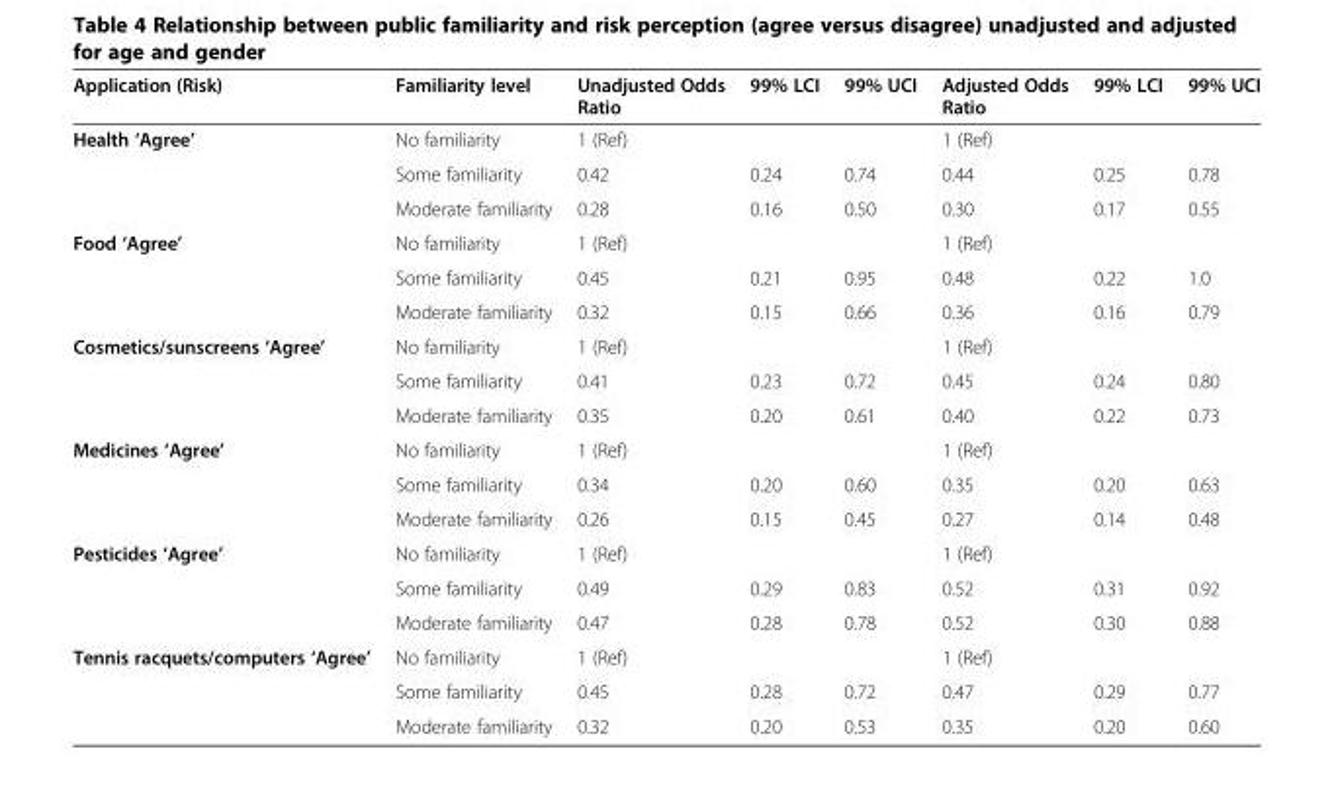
<table><thead><tr><td>Application (Risk)</td><td>Familiarity level</td><td>Unadjusted Odds Ratio</td><td>99% LCI</td><td>99% UCI</td><td>Adjusted Odds Ratio</td><td>99% LCI</td><td>99% UCI</td></tr></thead><tbody><tr><td rowspan="3">Health ‘Agree’</td><td>No familiarity</td><td>1 (Ref)</td><td></td><td></td><td>1 (Ref)</td><td></td><td></td></tr><tr><td>Some familiarity</td><td>0.42</td><td>0.24</td><td>0.74</td><td>0.44</td><td>0.25</td><td>0.78</td></tr><tr><td>Moderate familiarity</td><td>0.28</td><td>0.16</td><td>0.50</td><td>0.30</td><td>0.17</td><td>0.55</td></tr><tr><td rowspan="3">Food ‘Agree’</td><td>No familiarity</td><td>1 (Ref)</td><td></td><td></td><td>1 (Ref)</td><td></td><td></td></tr><tr><td>Some familiarity</td><td>0.45</td><td>0.21</td><td>0.95</td><td>0.48</td><td>0.22</td><td>1.0</td></tr><tr><td>Moderate familiarity</td><td>0.32</td><td>0.15</td><td>0.66</td><td>0.36</td><td>0.16</td><td>0.79</td></tr><tr><td rowspan="3">Cosmetics/sunscreens ‘Agree’</td><td>No familiarity</td><td>1 (Ref)</td><td></td><td></td><td>1 (Ref)</td><td></td><td></td></tr><tr><td>Some familiarity</td><td>0.41</td><td>0.23</td><td>0.72</td><td>0.45</td><td>0.24</td><td>0.80</td></tr><tr><td>Moderate familiarity</td><td>0.35</td><td>0.20</td><td>0.61</td><td>0.40</td><td>0.22</td><td>0.73</td></tr><tr><td rowspan="3">Medicines ‘Agree’</td><td>No familiarity</td><td>1 (Ref)</td><td></td><td></td><td>1 (Ref)</td><td></td><td></td></tr><tr><td>Some familiarity</td><td>0.34</td><td>0.20</td><td>0.60</td><td>0.35</td><td>0.20</td><td>0.63</td></tr><tr><td>Moderate familiarity</td><td>0.26</td><td>0.15</td><td>0.45</td><td>0.27</td><td>0.14</td><td>0.48</td></tr><tr><td rowspan="3">Pesticides ‘Agree’</td><td>No familiarity</td><td>1 (Ref)</td><td></td><td></td><td>1 (Ref)</td><td></td><td></td></tr><tr><td>Some familiarity</td><td>0.49</td><td>0.29</td><td>0.83</td><td>0.52</td><td>0.31</td><td>0.92</td></tr><tr><td>Moderate familiarity</td><td>0.47</td><td>0.28</td><td>0.78</td><td>0.52</td><td>0.30</td><td>0.88</td></tr><tr><td rowspan="3">Tennis racquets/computers ‘Agree’</td><td>No familiarity</td><td>1 (Ref)</td><td></td><td></td><td>1 (Ref)</td><td></td><td></td></tr><tr><td>Some familiarity</td><td>0.45</td><td>0.28</td><td>0.72</td><td>0.47</td><td>0.29</td><td>0.77</td></tr><tr><td>Moderate familiarity</td><td>0.32</td><td>0.20</td><td>0.53</td><td>0.35</td><td>0.20</td><td>0.60</td></tr></tbody></table>